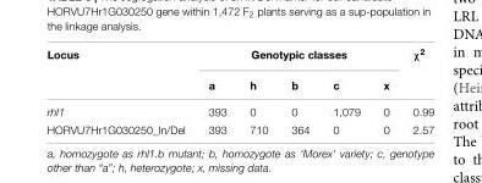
<table><thead><tr><td rowspan="2">Locus</td><td colspan="5">Genotypic classes</td><td rowspan="2">χ<sup>2</sup></td></tr><tr><td>a</td><td>h</td><td>b</td><td>c</td><td>x</td></tr></thead><tbody><tr><td>rhl1</td><td>393</td><td>0</td><td>0</td><td>1,079</td><td>0</td><td>0.99</td></tr><tr><td>HORVU7Hr1G030250_In/Del</td><td>393</td><td>710</td><td>364</td><td>0</td><td>0</td><td>2.57</td></tr></tbody></table>